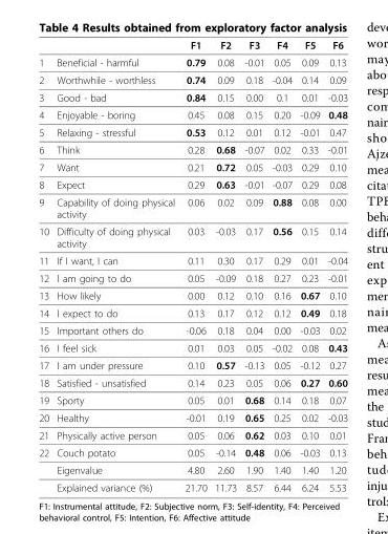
<table><thead><tr><td></td><td></td><td>F1</td><td>F2</td><td>F3</td><td>F4</td><td>F5</td><td>F6</td></tr></thead><tbody><tr><td>1</td><td>Beneficial - harmful</td><td>0.79</td><td>0.08</td><td>-0.01</td><td>0.05</td><td>0.09</td><td>0.13</td></tr><tr><td>2</td><td>Worthwhile - worthless</td><td>0.74</td><td>0.09</td><td>0.18</td><td>-0.04</td><td>0.14</td><td>0.09</td></tr><tr><td>3</td><td>Good - bad</td><td>0.84</td><td>0.15</td><td>0.00</td><td>0.1</td><td>0.01</td><td>-0.03</td></tr><tr><td>4</td><td>Enjoyable - boring</td><td>0.45</td><td>0.08</td><td>0.15</td><td>0.20</td><td>-0.09</td><td>0.48</td></tr><tr><td>5</td><td>Relaxing - stressful</td><td>0.53</td><td>0.12</td><td>0.01</td><td>0.12</td><td>-0.01</td><td>0.47</td></tr><tr><td>6</td><td>Think</td><td>0.28</td><td>0.68</td><td>-0.07</td><td>0.02</td><td>0.33</td><td>-0.01</td></tr><tr><td>7</td><td>Want</td><td>0.21</td><td>0.72</td><td>0.05</td><td>-0.03</td><td>0.29</td><td>0.10</td></tr><tr><td>8</td><td>Expect</td><td>0.29</td><td>0.63</td><td>-0.01</td><td>-0.07</td><td>0.29</td><td>0.08</td></tr><tr><td>9</td><td>Capability of doing physical activity</td><td>0.06</td><td>0.02</td><td>0.09</td><td>0.88</td><td>0.08</td><td>0.00</td></tr><tr><td>10</td><td>Difficulty of doing physical activity</td><td>0.03</td><td>-0.03</td><td>0.17</td><td>0.56</td><td>0.15</td><td>0.14</td></tr><tr><td>11</td><td>If I want, I can</td><td>0.11</td><td>0.30</td><td>0.17</td><td>0.29</td><td>0.01</td><td>-0.04</td></tr><tr><td>12</td><td>I am going to do</td><td>0.05</td><td>-0.09</td><td>0.18</td><td>0.27</td><td>0.23</td><td>-0.01</td></tr><tr><td>13</td><td>How likely</td><td>0.00</td><td>0.12</td><td>0.10</td><td>0.16</td><td>0.67</td><td>0.10</td></tr><tr><td>14</td><td>I expect to do</td><td>0.13</td><td>0.17</td><td>0.12</td><td>0.12</td><td>0.49</td><td>0.18</td></tr><tr><td>15</td><td>Important others do</td><td>-0.06</td><td>0.18</td><td>0.04</td><td>0.00</td><td>-0.03</td><td>0.02</td></tr><tr><td>16</td><td>I feel sick</td><td>0.01</td><td>0.03</td><td>0.05</td><td>-0.02</td><td>0.08</td><td>0.43</td></tr><tr><td>17</td><td>I am under pressure</td><td>0.10</td><td>0.57</td><td>-0.13</td><td>0.05</td><td>-0.12</td><td>0.27</td></tr><tr><td>18</td><td>Satisfied - unsatisfied</td><td>0.14</td><td>0.23</td><td>0.05</td><td>0.06</td><td>0.27</td><td>0.60</td></tr><tr><td>19</td><td>Sporty</td><td>0.05</td><td>0.01</td><td>0.68</td><td>0.14</td><td>0.18</td><td>0.07</td></tr><tr><td>20</td><td>Healthy</td><td>-0.01</td><td>0.19</td><td>0.65</td><td>0.25</td><td>0.02</td><td>-0.03</td></tr><tr><td>21</td><td>Physically active person</td><td>0.05</td><td>0.06</td><td>0.62</td><td>0.03</td><td>0.10</td><td>0.01</td></tr><tr><td rowspan="3">22</td><td>Couch potato</td><td>0.05</td><td>-0.14</td><td>0.48</td><td>0.06</td><td>-0.03</td><td>0.13</td></tr><tr><td>Eigenvalue</td><td>4.80</td><td>2.60</td><td>1.90</td><td>1.40</td><td>1.40</td><td>1.20</td></tr><tr><td>Explained variance (%)</td><td>21.70</td><td>11.73</td><td>8.57</td><td>6.44</td><td>6.24</td><td>5.53</td></tr></tbody></table>